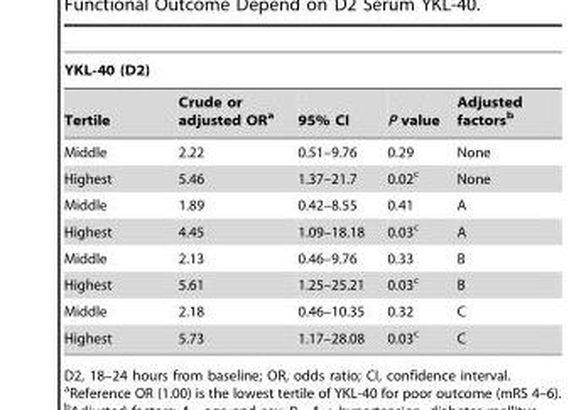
<table><thead><tr><td colspan="5">YKL-40 (D2)</td></tr><tr><td>Tertile</td><td>Crude or adjusted OR<sup>a</sup></td><td>95% CI</td><td>P value</td><td>Adjusted factors<sup>b</sup></td></tr></thead><tbody><tr><td>Middle</td><td>2.22</td><td>0.51–9.76</td><td>0.29</td><td>None</td></tr><tr><td>Highest</td><td>5.46</td><td>1.37–21.7</td><td>0.02<sup>c</sup></td><td>None</td></tr><tr><td>Middle</td><td>1.89</td><td>0.42–8.55</td><td>0.41</td><td>A</td></tr><tr><td>Highest</td><td>4.45</td><td>1.09–18.18</td><td>0.03<sup>c</sup></td><td>A</td></tr><tr><td>Middle</td><td>2.13</td><td>0.46–9.76</td><td>0.33</td><td>B</td></tr><tr><td>Highest</td><td>5.61</td><td>1.25–25.21</td><td>0.03<sup>c</sup></td><td>B</td></tr><tr><td>Middle</td><td>2.18</td><td>0.46–10.35</td><td>0.32</td><td>C</td></tr><tr><td>Highest</td><td>5.73</td><td>1.17–28.08</td><td>0.03<sup>c</sup></td><td>C</td></tr></tbody></table>